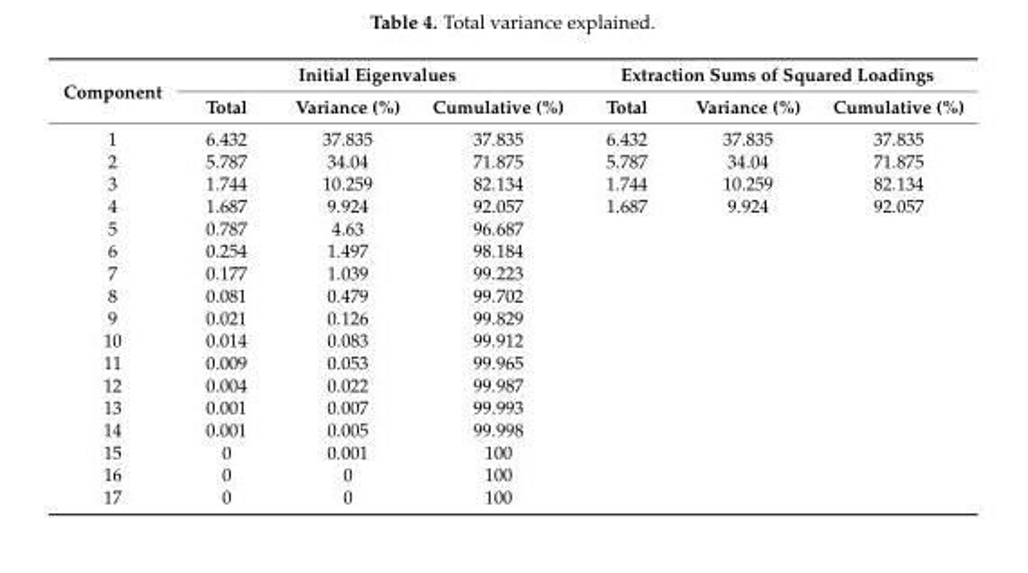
<table><thead><tr><td rowspan="2">Component</td><td colspan="3">Initial Eigenvalues</td><td colspan="3">Extraction Sums of Squared Loadings</td></tr><tr><td>Total</td><td>Variance (%)</td><td>Cumulative (%)</td><td>Total</td><td>Variance (%)</td><td>Cumulative (%)</td></tr></thead><tbody><tr><td>1</td><td>6.432</td><td>37.835</td><td>37.835</td><td>6.432</td><td>37.835</td><td>37.835</td></tr><tr><td>2</td><td>5.787</td><td>34.04</td><td>71.875</td><td>5.787</td><td>34.04</td><td>71.875</td></tr><tr><td>3</td><td>1.744</td><td>10.259</td><td>82.134</td><td>1.744</td><td>10.259</td><td>82.134</td></tr><tr><td>4</td><td>1.687</td><td>9.924</td><td>92.057</td><td>1.687</td><td>9.924</td><td>92.057</td></tr><tr><td>5</td><td>0.787</td><td>4.63</td><td>96.687</td><td></td><td></td><td></td></tr><tr><td>6</td><td>0.254</td><td>1.497</td><td>98.184</td><td></td><td></td><td></td></tr><tr><td>7</td><td>0.177</td><td>1.039</td><td>99.223</td><td></td><td></td><td></td></tr><tr><td>8</td><td>0.081</td><td>0.479</td><td>99.702</td><td></td><td></td><td></td></tr><tr><td>9</td><td>0.021</td><td>0.126</td><td>99.829</td><td></td><td></td><td></td></tr><tr><td>10</td><td>0.014</td><td>0.083</td><td>99.912</td><td></td><td></td><td></td></tr><tr><td>11</td><td>0.009</td><td>0.053</td><td>99.965</td><td></td><td></td><td></td></tr><tr><td>12</td><td>0.004</td><td>0.022</td><td>99.987</td><td></td><td></td><td></td></tr><tr><td>13</td><td>0.001</td><td>0.007</td><td>99.993</td><td></td><td></td><td></td></tr><tr><td>14</td><td>0.001</td><td>0.005</td><td>99.998</td><td></td><td></td><td></td></tr><tr><td>15</td><td>0</td><td>0.001</td><td>100</td><td></td><td></td><td></td></tr><tr><td>16</td><td>0</td><td>0</td><td>100</td><td></td><td></td><td></td></tr><tr><td>17</td><td>0</td><td>0</td><td>100</td><td></td><td></td><td></td></tr></tbody></table>